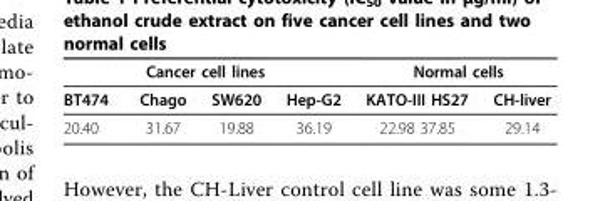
<table><thead><tr><td colspan="4">Cancer cell lines</td><td colspan="2">Normal cells</td></tr><tr><td>BT474</td><td>Chago</td><td>SW620</td><td>Hep-G2</td><td>KATO-III HS27</td><td>CH-liver</td></tr></thead><tbody><tr><td>20.40</td><td>31.67</td><td>19.88</td><td>36.19</td><td>22.98 37.85</td><td>29.14</td></tr></tbody></table>